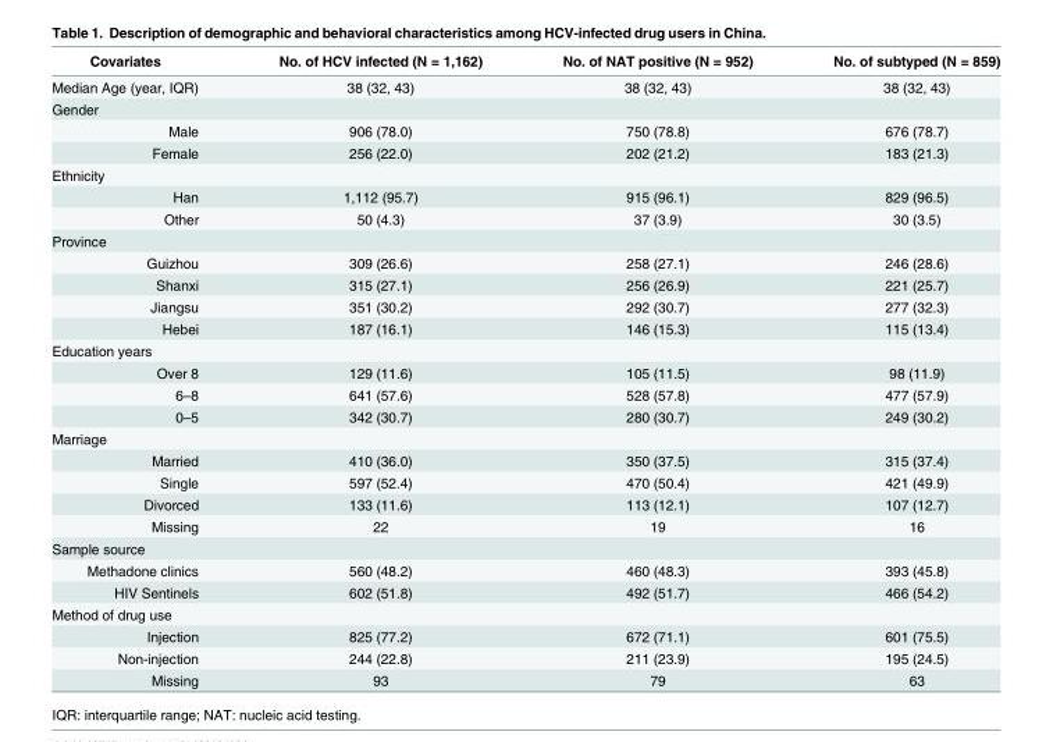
<table><thead><tr><td>Covariates</td><td>No. of HCV infected (N = 1,162)</td><td>No. of NAT positive (N = 952)</td><td>No. of subtyped (N = 859)</td></tr></thead><tbody><tr><td>Median Age (year, IQR)</td><td>38 (32, 43)</td><td>38 (32, 43)</td><td>38 (32, 43)</td></tr><tr><td colspan="4">Gender</td></tr><tr><td>Male</td><td>906 (78.0)</td><td>750 (78.8)</td><td>676 (78.7)</td></tr><tr><td>Female</td><td>256 (22.0)</td><td>202 (21.2)</td><td>183 (21.3)</td></tr><tr><td colspan="4">Ethnicity</td></tr><tr><td>Han</td><td>1,112 (95.7)</td><td>915 (96.1)</td><td>829 (96.5)</td></tr><tr><td>Other</td><td>50 (4.3)</td><td>37 (3.9)</td><td>30 (3.5)</td></tr><tr><td colspan="4">Province</td></tr><tr><td>Guizhou</td><td>309 (26.6)</td><td>258 (27.1)</td><td>246 (28.6)</td></tr><tr><td>Shanxi</td><td>315 (27.1)</td><td>256 (26.9)</td><td>221 (25.7)</td></tr><tr><td>Jiangsu</td><td>351 (30.2)</td><td>292 (30.7)</td><td>277 (32.3)</td></tr><tr><td>Hebei</td><td>187 (16.1)</td><td>146 (15.3)</td><td>115 (13.4)</td></tr><tr><td colspan="4">Education years</td></tr><tr><td>Over 8</td><td>129 (11.6)</td><td>105 (11.5)</td><td>98 (11.9)</td></tr><tr><td>6–8</td><td>641 (57.6)</td><td>528 (57.8)</td><td>477 (57.9)</td></tr><tr><td>0–5</td><td>342 (30.7)</td><td>280 (30.7)</td><td>249 (30.2)</td></tr><tr><td colspan="4">Marriage</td></tr><tr><td>Married</td><td>410 (36.0)</td><td>350 (37.5)</td><td>315 (37.4)</td></tr><tr><td>Single</td><td>597 (52.4)</td><td>470 (50.4)</td><td>421 (49.9)</td></tr><tr><td>Divorced</td><td>133 (11.6)</td><td>113 (12.1)</td><td>107 (12.7)</td></tr><tr><td>Missing</td><td>22</td><td>19</td><td>16</td></tr><tr><td colspan="4">Sample source</td></tr><tr><td>Methadone clinics</td><td>560 (48.2)</td><td>460 (48.3)</td><td>393 (45.8)</td></tr><tr><td>HIV Sentinels</td><td>602 (51.8)</td><td>492 (51.7)</td><td>466 (54.2)</td></tr><tr><td colspan="4">Method of drug use</td></tr><tr><td>Injection</td><td>825 (77.2)</td><td>672 (71.1)</td><td>601 (75.5)</td></tr><tr><td>Non-injection</td><td>244 (22.8)</td><td>211 (23.9)</td><td>195 (24.5)</td></tr><tr><td>Missing</td><td>93</td><td>79</td><td>63</td></tr></tbody></table>